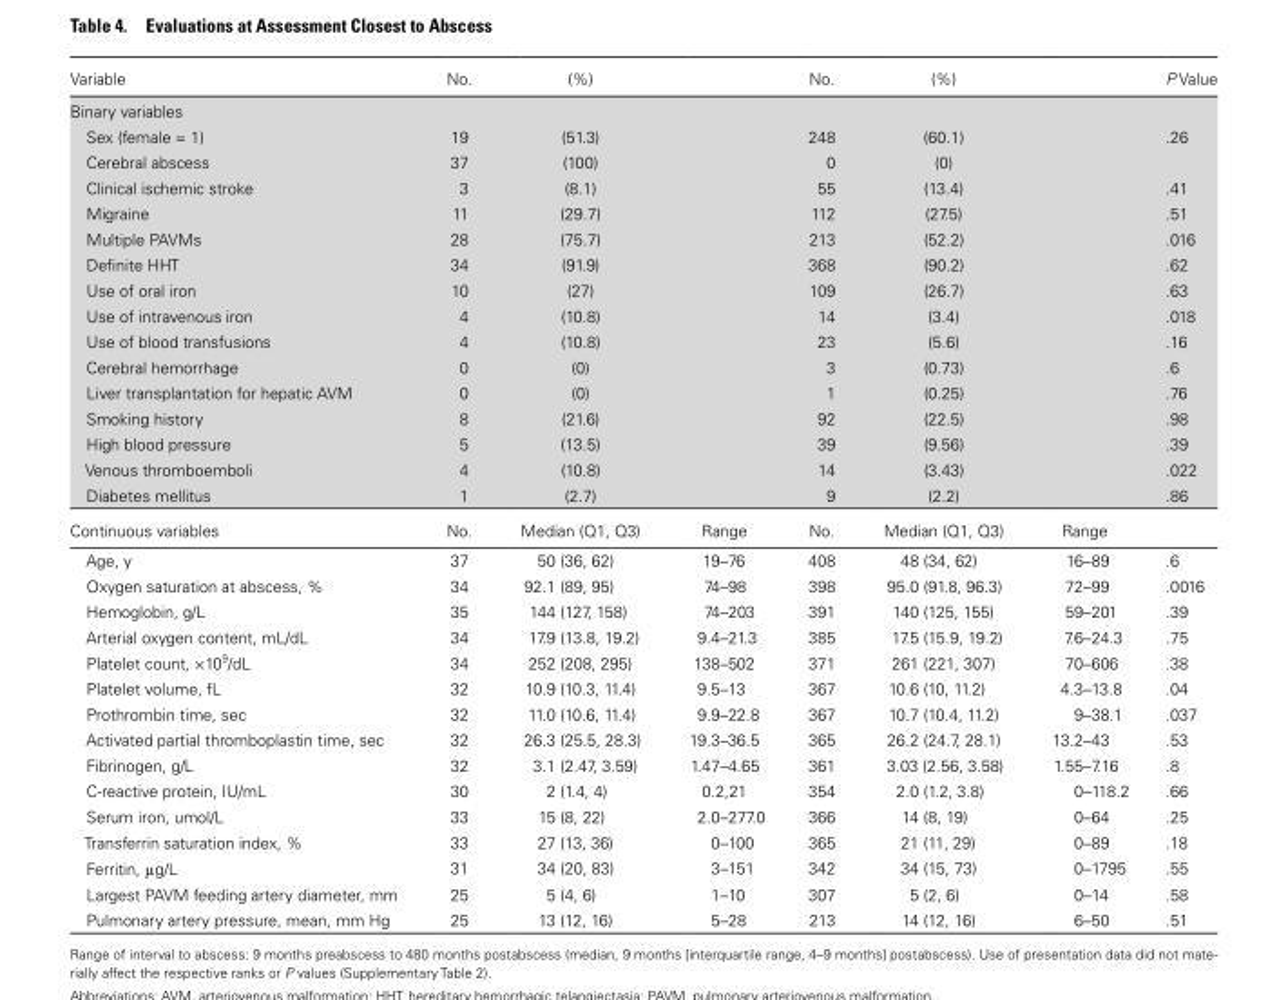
<table><thead><tr><td>Variable</td><td>No.</td><td>(%)</td><td></td><td>No.</td><td>(%)</td><td></td><td>P Value</td></tr></thead><tbody><tr><td colspan="8">Binary variables</td></tr><tr><td>Sex (female = 1)</td><td>19</td><td>(51.3)</td><td></td><td>248</td><td>(60.1)</td><td></td><td>.26</td></tr><tr><td>Cerebral abscess</td><td>37</td><td>(100)</td><td></td><td>0</td><td>(0)</td><td></td><td></td></tr><tr><td>Clinical ischemic stroke</td><td>3</td><td>(8.1)</td><td></td><td>55</td><td>(13.4)</td><td></td><td>.41</td></tr><tr><td>Migraine</td><td>11</td><td>(29.7)</td><td></td><td>112</td><td>(27.5)</td><td></td><td>.51</td></tr><tr><td>Multiple PAVMs</td><td>28</td><td>(75.7)</td><td></td><td>213</td><td>(52.2)</td><td></td><td>.016</td></tr><tr><td>Definite HHT</td><td>34</td><td>(91.9)</td><td></td><td>368</td><td>(90.2)</td><td></td><td>.62</td></tr><tr><td>Use of oral iron</td><td>10</td><td>(27)</td><td></td><td>109</td><td>(26.7)</td><td></td><td>.63</td></tr><tr><td>Use of intravenous iron</td><td>4</td><td>(10.8)</td><td></td><td>14</td><td>(3.4)</td><td></td><td>.018</td></tr><tr><td>Use of blood transfusions</td><td>4</td><td>(10.8)</td><td></td><td>23</td><td>(5.6)</td><td></td><td>.16</td></tr><tr><td>Cerebral hemorrhage</td><td>0</td><td>(0)</td><td></td><td>3</td><td>(0.73)</td><td></td><td>.6</td></tr><tr><td>Liver transplantation for hepatic AVM</td><td>0</td><td>(0)</td><td></td><td>1</td><td>(0.25)</td><td></td><td>.76</td></tr><tr><td>Smoking history</td><td>8</td><td>(21.6)</td><td></td><td>92</td><td>(22.5)</td><td></td><td>.98</td></tr><tr><td>High blood pressure</td><td>5</td><td>(13.5)</td><td></td><td>39</td><td>(9.56)</td><td></td><td>.39</td></tr><tr><td>Venous thromboemboli</td><td>4</td><td>(10.8)</td><td></td><td>14</td><td>(3.43)</td><td></td><td>.022</td></tr><tr><td>Diabetes mellitus</td><td>1</td><td>(2.7)</td><td></td><td>9</td><td>(2.2)</td><td></td><td>.86</td></tr><tr><td>Continuous variables</td><td>No.</td><td>Median (Q1, Q3)</td><td>Range</td><td>No.</td><td>Median (Q1, Q3)</td><td>Range</td><td></td></tr><tr><td>Age, y</td><td>37</td><td>50 (36, 62)</td><td>19–76</td><td>408</td><td>48 (34, 62)</td><td>16–89</td><td>.6</td></tr><tr><td>Oxygen saturation at abscess, %</td><td>34</td><td>92.1 (89, 95)</td><td>74–98</td><td>398</td><td>95.0 (91.8, 96.3)</td><td>72–99</td><td>.0016</td></tr><tr><td>Hemoglobin, g/L</td><td>35</td><td>144 (127, 158)</td><td>74–203</td><td>391</td><td>140 (125, 155)</td><td>59–201</td><td>.39</td></tr><tr><td>Arterial oxygen content, mL/dL</td><td>34</td><td>17.9 (13.8, 19.2)</td><td>9.4–21.3</td><td>385</td><td>17.5 (15.9, 19.2)</td><td>7.6–24.3</td><td>.75</td></tr><tr><td>Platelet count, ×10<sup>9</sup>/dL</td><td>34</td><td>252 (208, 295)</td><td>138–502</td><td>371</td><td>261 (221, 307)</td><td>70–606</td><td>.38</td></tr><tr><td>Platelet volume, fL</td><td>32</td><td>10.9 (10.3, 11.4)</td><td>9.5–13</td><td>367</td><td>10.6 (10, 11.2)</td><td>4.3–13.8</td><td>.04</td></tr><tr><td>Prothrombin time, sec</td><td>32</td><td>11.0 (10.6, 11.4)</td><td>9.9–22.8</td><td>367</td><td>10.7 (10.4, 11.2)</td><td>9–38.1</td><td>.037</td></tr><tr><td>Activated partial thromboplastin time, sec</td><td>32</td><td>26.3 (25.5, 28.3)</td><td>19.3–36.5</td><td>365</td><td>26.2 (24.7, 28.1)</td><td>13.2–43</td><td>.53</td></tr><tr><td>Fibrinogen, g/L</td><td>32</td><td>3.1 (2.47, 3.59)</td><td>1.47–4.65</td><td>361</td><td>3.03 (2.56, 3.58)</td><td>1.55–7.16</td><td>.8</td></tr><tr><td>C-reactive protein, IU/mL</td><td>30</td><td>2 (1.4, 4)</td><td>0.2,21</td><td>354</td><td>2.0 (1.2, 3.8)</td><td>0–118.2</td><td>.66</td></tr><tr><td>Serum iron, umol/L</td><td>33</td><td>15 (8, 22)</td><td>2.0–277.0</td><td>366</td><td>14 (8, 19)</td><td>0–64</td><td>.25</td></tr><tr><td>Transferrin saturation index, %</td><td>33</td><td>27 (13, 36)</td><td>0–100</td><td>365</td><td>21 (11, 29)</td><td>0–89</td><td>.18</td></tr><tr><td>Ferritin, μg/L</td><td>31</td><td>34 (20, 83)</td><td>3–151</td><td>342</td><td>34 (15, 73)</td><td>0–1795</td><td>.55</td></tr><tr><td>Largest PAVM feeding artery diameter, mm</td><td>25</td><td>5 (4, 6)</td><td>1–10</td><td>307</td><td>5 (2, 6)</td><td>0–14</td><td>.58</td></tr><tr><td>Pulmonary artery pressure, mean, mm Hg</td><td>25</td><td>13 (12, 16)</td><td>5–28</td><td>213</td><td>14 (12, 16)</td><td>6–50</td><td>.51</td></tr></tbody></table>